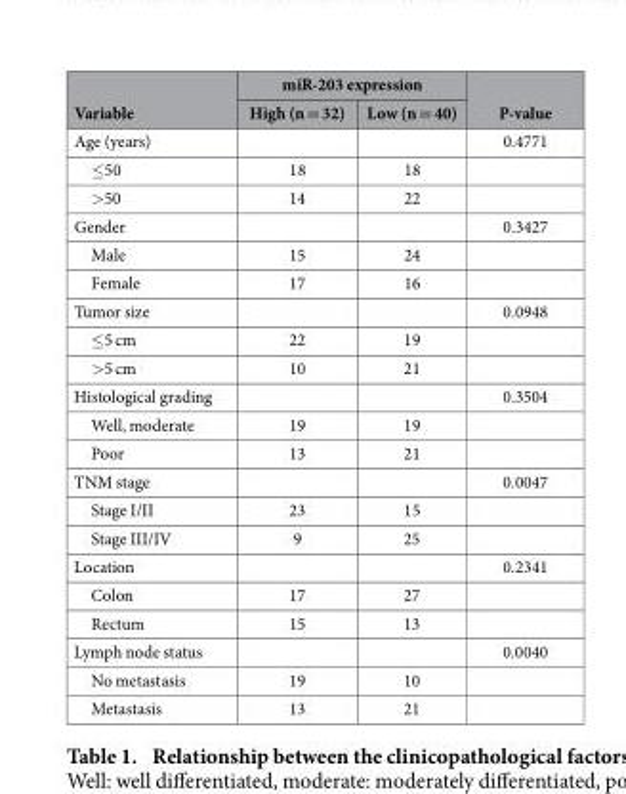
<table><thead><tr><td rowspan="2">Variable</td><td colspan="2">miR-203 expression</td><td rowspan="2">P-value</td></tr><tr><td>High (n = 32)</td><td>Low (n = 40)</td></tr></thead><tbody><tr><td>Age (years)</td><td></td><td></td><td>0.4771</td></tr><tr><td>≤ 50</td><td>18</td><td>18</td><td></td></tr><tr><td>&gt; 50</td><td>14</td><td>22</td><td></td></tr><tr><td>Gender</td><td></td><td></td><td>0.3427</td></tr><tr><td>Male</td><td>15</td><td>24</td><td></td></tr><tr><td>Female</td><td>17</td><td>16</td><td></td></tr><tr><td>Tumor size</td><td></td><td></td><td>0.0948</td></tr><tr><td>≤ 5 cm</td><td>22</td><td>19</td><td></td></tr><tr><td>&gt; 5 cm</td><td>10</td><td>21</td><td></td></tr><tr><td>Histological grading</td><td></td><td></td><td>0.3504</td></tr><tr><td>Well, moderate</td><td>19</td><td>19</td><td></td></tr><tr><td>Poor</td><td>13</td><td>21</td><td></td></tr><tr><td>TNM stage</td><td></td><td></td><td>0.0047</td></tr><tr><td>Stage I/II</td><td>23</td><td>15</td><td></td></tr><tr><td>Stage III/IV</td><td>9</td><td>25</td><td></td></tr><tr><td>Location</td><td></td><td></td><td>0.2341</td></tr><tr><td>Colon</td><td>17</td><td>27</td><td></td></tr><tr><td>Rectum</td><td>15</td><td>13</td><td></td></tr><tr><td>Lymph node status</td><td></td><td></td><td>0.0040</td></tr><tr><td>No metastasis</td><td>19</td><td>10</td><td></td></tr><tr><td>Metastasis</td><td>13</td><td>21</td><td></td></tr></tbody></table>